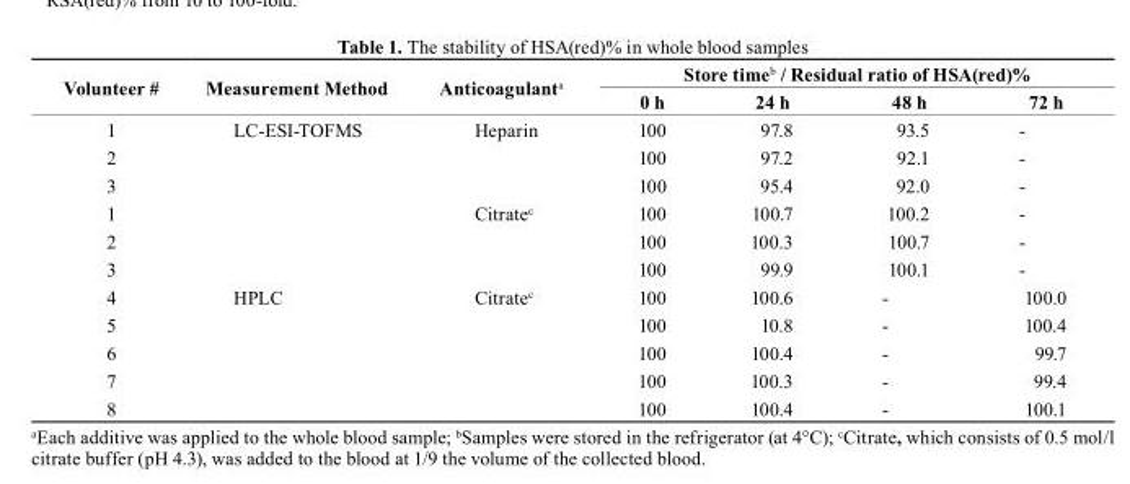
<table><thead><tr><td rowspan="2">Volunteer #</td><td rowspan="2">Measurement Method</td><td rowspan="2">Anticoagulant<sup>a</sup></td><td colspan="4">store time<sup>b</sup> / residual ratio of HsA(red)%</td></tr><tr><td>0 h</td><td>24 h</td><td>48 h</td><td>72 h</td></tr></thead><tbody><tr><td>1</td><td rowspan="6">LC-ESI-TOFMS</td><td rowspan="3">Heparin</td><td>100</td><td>97.8</td><td>93.5</td><td>-</td></tr><tr><td>2</td><td>100</td><td>97.2</td><td>92.1</td><td>-</td></tr><tr><td>3</td><td>100</td><td>95.4</td><td>92.0</td><td>-</td></tr><tr><td>1</td><td rowspan="3">Citrate<sup>c</sup></td><td>100</td><td>100.7</td><td>100.2</td><td>-</td></tr><tr><td>2</td><td>100</td><td>100.3</td><td>100.7</td><td>-</td></tr><tr><td>3</td><td>100</td><td>99.9</td><td>100.1</td><td>-</td></tr><tr><td>4</td><td rowspan="5">HPLC</td><td rowspan="5">Citrate<sup>c</sup></td><td>100</td><td>100.6</td><td>-</td><td>100.0</td></tr><tr><td>5</td><td>100</td><td>10.8</td><td>-</td><td>100.4</td></tr><tr><td>6</td><td>100</td><td>100.4</td><td>-</td><td>99.7</td></tr><tr><td>7</td><td>100</td><td>100.3</td><td>-</td><td>99.4</td></tr><tr><td>8</td><td>100</td><td>100.4</td><td>-</td><td>100.1</td></tr></tbody></table>